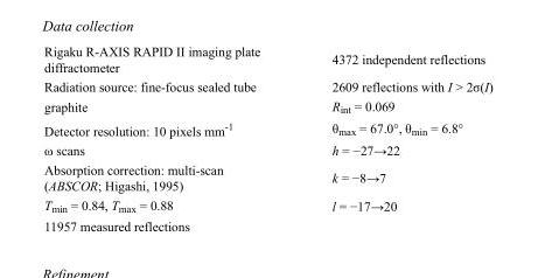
<table><tbody><tr><td>Rigaku R-AXIS RAPID II imaging plate diffractometer</td><td>4372 independent reflections</td></tr><tr><td>Radiation source: fine-focus sealed tube</td><td>2609 reflections with I &gt; 2σ(I)</td></tr><tr><td>graphite</td><td>R<sub>int</sub> = 0.069</td></tr><tr><td>Detector resolution: 10 pixels mm<sup>-1</sup></td><td>θ<sub>max</sub> = 67.0°, θ<sub>min</sub> = 6.8°</td></tr><tr><td>ω scans</td><td>h = −27→22</td></tr><tr><td>Absorption correction: multi-scan (ABSCOR; Higashi, 1995)</td><td>k = −8→7</td></tr><tr><td>T<sub>min</sub> = 0.84, T<sub>max</sub> = 0.88</td><td>l = −17→20</td></tr><tr><td>11957 measured reflections</td><td></td></tr></tbody></table>